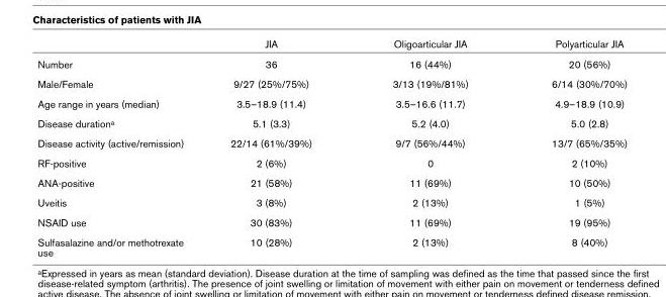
<table><thead><tr><td></td><td>JIA</td><td>Oligoarticular JIA</td><td>Polyarticular JIA</td></tr></thead><tbody><tr><td>Number</td><td>36</td><td>16 (44%)</td><td>20 (56%)</td></tr><tr><td>Male/Female</td><td>9/27 (25%/75%)</td><td>3/13 (19%/81%)</td><td>6/14 (30%/70%)</td></tr><tr><td>Age range in years (median)</td><td>3.5–18.9 (11.4)</td><td>3.5–16.6 (11.7)</td><td>4.9–18.9 (10.9)</td></tr><tr><td>Disease durationa</td><td>5.1 (3.3)</td><td>5.2 (4.0)</td><td>5.0 (2.8)</td></tr><tr><td>Disease activity (active/remission)</td><td>22/14 (61%/39%)</td><td>9/7 (56%/44%)</td><td>13/7 (65%/35%)</td></tr><tr><td>RF-positive</td><td>2 (6%)</td><td>0</td><td>2 (10%)</td></tr><tr><td>ANA-positive</td><td>21 (58%)</td><td>11 (69%)</td><td>10 (50%)</td></tr><tr><td>Uveitis</td><td>3 (8%)</td><td>2 (13%)</td><td>1 (5%)</td></tr><tr><td>NSAID use</td><td>30 (83%)</td><td>11 (69%)</td><td>19 (95%)</td></tr><tr><td>Sulfasalazine and/or methotrexate use</td><td>10 (28%)</td><td>2 (13%)</td><td>8 (40%)</td></tr></tbody></table>